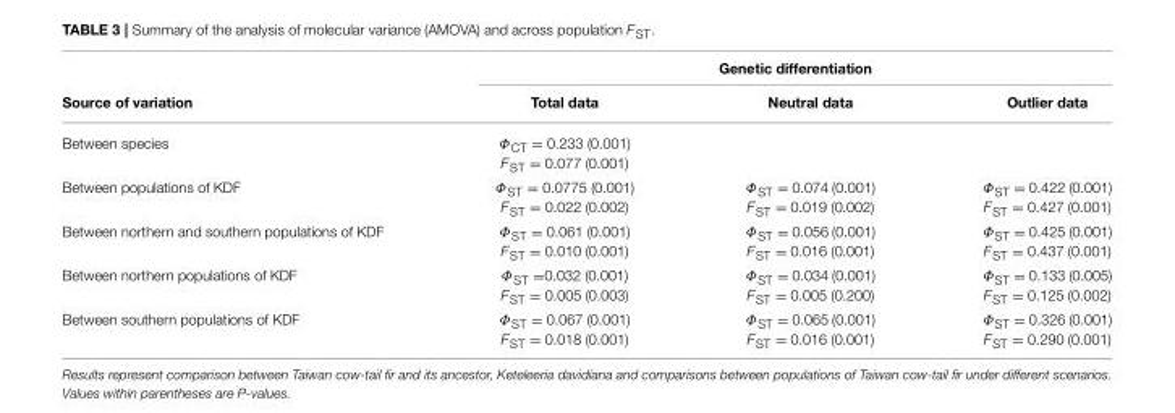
<table><thead><tr><td rowspan="2">Source of variation</td><td colspan="3">Genetic differentiation</td></tr><tr><td>Total data</td><td>Neutral data</td><td>Outlier data</td></tr></thead><tbody><tr><td>Between species</td><td>Φ<sub>CT</sub> = 0.233 (0.001) F<sub>ST</sub> = 0.077 (0.001)</td><td></td><td></td></tr><tr><td>Between populations of KDF</td><td>Φ<sub>ST</sub> = 0.0775 (0.001) F<sub>ST</sub> = 0.022 (0.002)</td><td>Φ<sub>ST</sub> = 0.074 (0.001) F<sub>ST</sub> = 0.019 (0.002)</td><td>ΦST = 0.422 (0.001) FST = 0.427 (0.001)</td></tr><tr><td>Between northern and southern populations of KDF</td><td>Φ<sub>ST</sub> = 0.061 (0.001) F<sub>ST</sub> = 0.010 (0.001)</td><td>Φ<sub>ST</sub> = 0.056 (0.001) F<sub>ST</sub> = 0.016 (0.001)</td><td>Φ<sub>ST</sub> = 0.425 (0.001) F<sub>ST</sub> = 0.437 (0.001)</td></tr><tr><td>Between northern populations of KDF</td><td>Φ<sub>ST</sub> =0.032 (0.001) F<sub>ST</sub> = 0.005 (0.003)</td><td>Φ<sub>ST</sub> = 0.034 (0.001) F<sub>ST</sub> = 0.005 (0.200)</td><td>Φ<sub>ST</sub> = 0.133 (0.005) F<sub>ST</sub> = 0.125 (0.002)</td></tr><tr><td>Between southern populations of KDF</td><td>Φ<sub>ST</sub> = 0.067 (0.001) F<sub>ST</sub> = 0.018 (0.001)</td><td>Φ<sub>ST</sub> = 0.065 (0.001) F<sub>ST</sub> = 0.016 (0.001)</td><td>Φ<sub>ST</sub> = 0.326 (0.001) F<sub>ST</sub> = 0.290 (0.001)</td></tr></tbody></table>